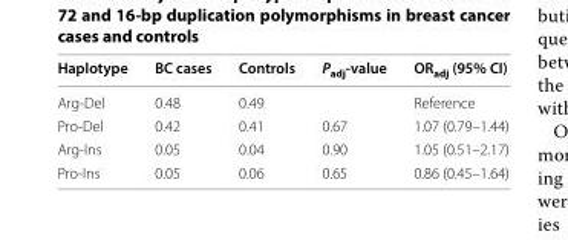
<table><thead><tr><td>Haplotype</td><td>BC cases</td><td>Controls</td><td>P<sub>adj</sub>-value</td><td>OR<sub>adj</sub> (95% CI)</td></tr></thead><tbody><tr><td>Arg-Del</td><td>0.48</td><td>0.49</td><td></td><td>Reference</td></tr><tr><td>Pro-Del</td><td>0.42</td><td>0.41</td><td>0.67</td><td>1.07 (0.79–1.44)</td></tr><tr><td>Arg-Ins</td><td>0.05</td><td>0.04</td><td>0.90</td><td>1.05 (0.51–2.17)</td></tr><tr><td>Pro-Ins</td><td>0.05</td><td>0.06</td><td>0.65</td><td>0.86 (0.45–1.64)</td></tr></tbody></table>